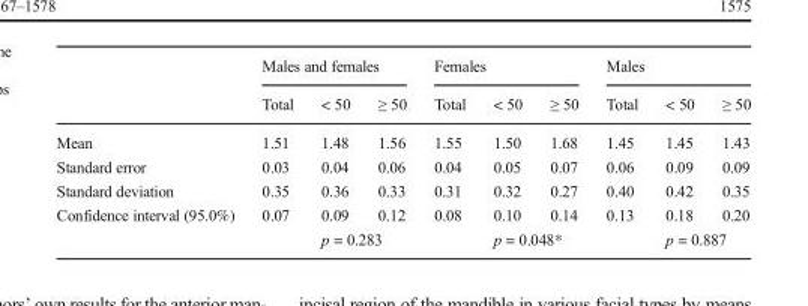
<table><thead><tr><td rowspan="2"></td><td colspan="3">Males and females</td><td colspan="3">Females</td><td colspan="3">Males</td></tr><tr><td>Total</td><td>&lt; 50</td><td>≥ 50</td><td>Total</td><td>&lt; 50</td><td>≥ 50</td><td>Total</td><td>&lt; 50</td><td>≥ 50</td></tr></thead><tbody><tr><td>Mean</td><td>1.51</td><td>1.48</td><td>1.56</td><td>1.55</td><td>1.50</td><td>1.68</td><td>1.45</td><td>1.45</td><td>1.43</td></tr><tr><td>Standard error</td><td>0.03</td><td>0.04</td><td>0.06</td><td>0.04</td><td>0.05</td><td>0.07</td><td>0.06</td><td>0.09</td><td>0.09</td></tr><tr><td>Standard deviation</td><td>0.35</td><td>0.36</td><td>0.33</td><td>0.31</td><td>0.32</td><td>0.27</td><td>0.40</td><td>0.42</td><td>0.35</td></tr><tr><td rowspan="2">Confidence interval (95.0%)</td><td>0.07</td><td>0.09</td><td>0.12</td><td>0.08</td><td>0.10</td><td>0.14</td><td>0.13</td><td>0.18</td><td>0.20</td></tr><tr><td></td><td colspan="2">p = 0.283</td><td></td><td colspan="2">p = 0.048*</td><td></td><td colspan="2">p = 0.887</td></tr></tbody></table>